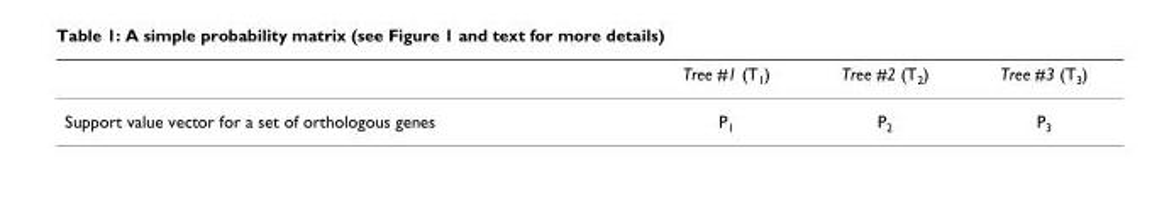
<table><thead><tr><td></td><td>Tree #1 (T<sub>1</sub>)</td><td>Tree #2 (T<sub>2</sub>)</td><td>Tree #3 (T<sub>3</sub>)</td></tr></thead><tbody><tr><td>Support value vector for a set of orthologous genes</td><td>P<sub>1</sub></td><td>P<sub>2</sub></td><td>P<sub>3</sub></td></tr></tbody></table>